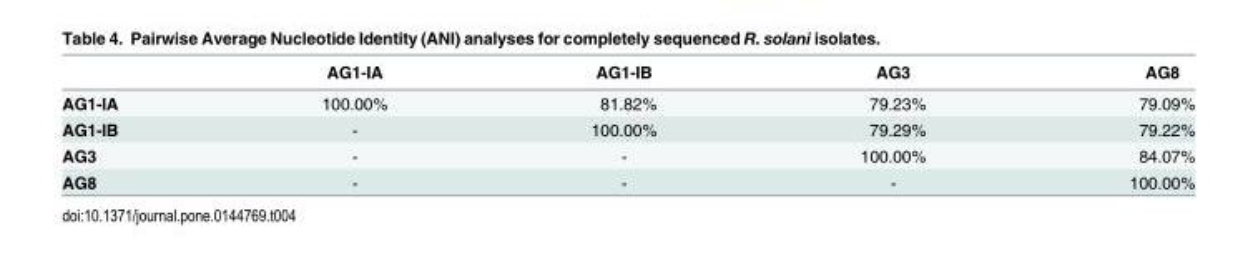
<table><thead><tr><td></td><td>AG1-IA</td><td>AG1-IB</td><td>AG3</td><td>AG8</td></tr></thead><tbody><tr><td>AG1-IA</td><td>100.00%</td><td>81.82%</td><td>79.23%</td><td>79.09%</td></tr><tr><td>AG1-IB</td><td>-</td><td>100.00%</td><td>79.29%</td><td>79.22%</td></tr><tr><td>AG3</td><td>-</td><td>-</td><td>100.00%</td><td>84.07%</td></tr><tr><td>AG8</td><td>-</td><td>-</td><td>-</td><td>100.00%</td></tr></tbody></table>